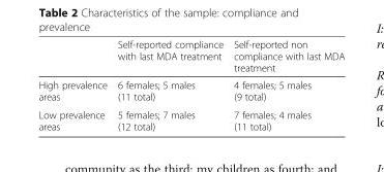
<table><thead><tr><td></td><td>Self-reported compliance with last MDA treatment</td><td>Self-reported non compliance with last MDA treatment</td></tr></thead><tbody><tr><td>High prevalence areas</td><td>6 females; 5 males (11 total)</td><td>4 females; 5 males (9 total)</td></tr><tr><td>Low prevalence areas</td><td>5 females; 7 males (12 total)</td><td>7 females; 4 males (11 total)</td></tr></tbody></table>